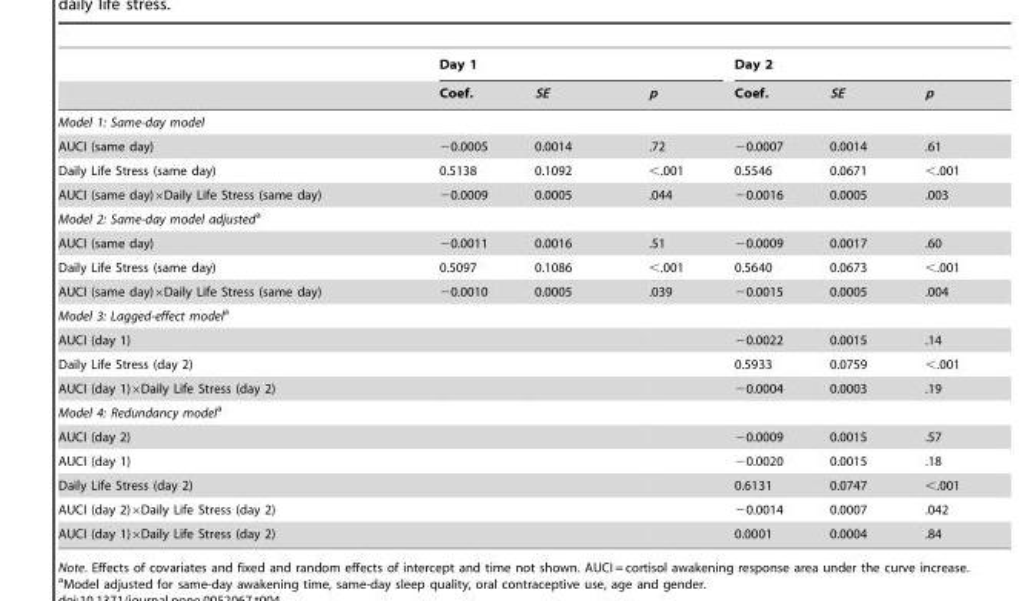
<table><thead><tr><td rowspan="2"></td><td colspan="3">Day 1</td><td colspan="3">Day 2</td></tr><tr><td>Coef.</td><td>SE</td><td>p</td><td>Coef.</td><td>SE</td><td>p</td></tr></thead><tbody><tr><td colspan="7">Model 1: Same-day model</td></tr><tr><td>AUCI (same day)</td><td>−0.0005</td><td>0.0014</td><td>.72</td><td>−0.0007</td><td>0.0014</td><td>.61</td></tr><tr><td>Daily Life Stress (same day)</td><td>0.5138</td><td>0.1092</td><td>&lt;.001</td><td>0.5546</td><td>0.0671</td><td>&lt;.001</td></tr><tr><td>AUCI (same day)×Daily Life Stress (same day)</td><td>−0.0009</td><td>0.0005</td><td>.044</td><td>−0.0016</td><td>0.0005</td><td>.003</td></tr><tr><td colspan="7">Model 2: Same-day model adjusteda</td></tr><tr><td>AUCI (same day)</td><td>−0.0011</td><td>0.0016</td><td>.51</td><td>−0.0009</td><td>0.0017</td><td>.60</td></tr><tr><td>Daily Life Stress (same day)</td><td>0.5097</td><td>0.1086</td><td>&lt;.001</td><td>0.5640</td><td>0.0673</td><td>&lt;.001</td></tr><tr><td>AUCI (same day)×Daily Life Stress (same day)</td><td>−0.0010</td><td>0.0005</td><td>.039</td><td>−0.0015</td><td>0.0005</td><td>.004</td></tr><tr><td colspan="7">Model 3: Lagged-effect modela</td></tr><tr><td>AUCI (day 1)</td><td></td><td></td><td></td><td>−0.0022</td><td>0.0015</td><td>.14</td></tr><tr><td>Daily Life Stress (day 2)</td><td></td><td></td><td></td><td>0.5933</td><td>0.0759</td><td>&lt;.001</td></tr><tr><td>AUCI (day 1)×Daily Life Stress (day 2)</td><td></td><td></td><td></td><td>−0.0004</td><td>0.0003</td><td>.19</td></tr><tr><td colspan="7">Model 4: Redundancy modela</td></tr><tr><td>AUCI (day 2)</td><td></td><td></td><td></td><td>−0.0009</td><td>0.0015</td><td>.57</td></tr><tr><td>AUCI (day 1)</td><td></td><td></td><td></td><td>−0.0020</td><td>0.0015</td><td>.18</td></tr><tr><td>Daily Life Stress (day 2)</td><td></td><td></td><td></td><td>0.6131</td><td>0.0747</td><td>&lt;.001</td></tr><tr><td>AUCI (day 2)×Daily Life Stress (day 2)</td><td></td><td></td><td></td><td>−0.0014</td><td>0.0007</td><td>.042</td></tr><tr><td>AUCI (day 1)×Daily Life Stress (day 2)</td><td></td><td></td><td></td><td>0.0001</td><td>0.0004</td><td>.84</td></tr></tbody></table>